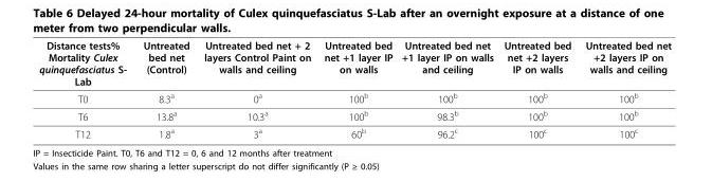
<table><thead><tr><td>Distance tests% Mortality Culex quinquefasciatus S- Lab</td><td>Untreated bed net (Control)</td><td>Untreated bed net + 2 layers Control Paint on walls and ceiling</td><td>Untreated bed net +1 layer IP on walls</td><td>Untreated bed net +1 layer IP on walls and ceiling</td><td>Untreated bed net +2 layers IP on walls</td><td>Untreated bed net +2 layers IP on walls and ceiling</td></tr></thead><tbody><tr><td>T0</td><td>8.3<sup>a</sup></td><td>0<sup>a</sup></td><td>100<sup>b</sup></td><td>100<sup>b</sup></td><td>100<sup>b</sup></td><td>100<sup>b</sup></td></tr><tr><td>T6</td><td>13.8<sup>a</sup></td><td>10.3<sup>a</sup></td><td>100<sup>b</sup></td><td>98.3<sup>b</sup></td><td>100<sup>b</sup></td><td>100<sup>b</sup></td></tr><tr><td>T12</td><td>1.8<sup>a</sup></td><td>3<sup>a</sup></td><td>60<sup>b</sup></td><td>96.2<sup>c</sup></td><td>100<sup>c</sup></td><td>100<sup>c</sup></td></tr></tbody></table>